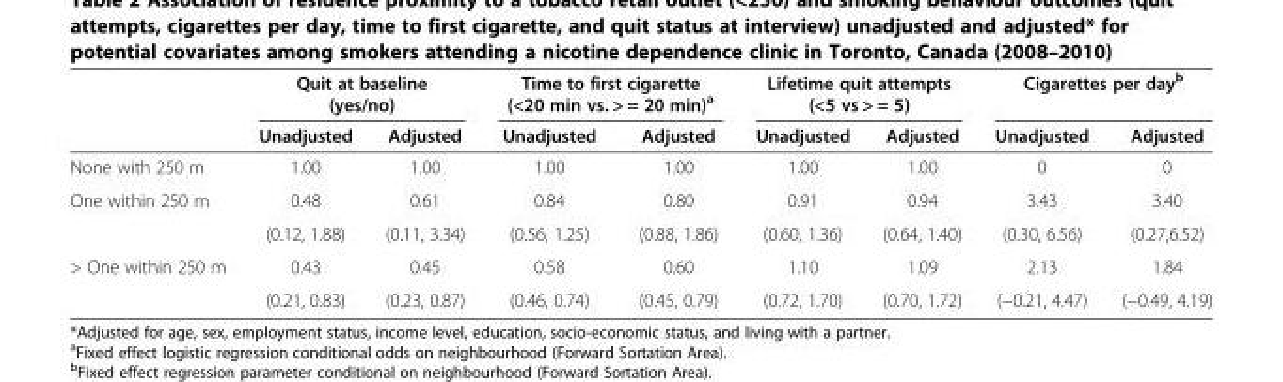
<table><thead><tr><td rowspan="2"></td><td colspan="2">Quit at baseline (yes/no)</td><td colspan="2">Time to first cigarette (&lt;20 min vs. &gt; = 20 min)<sup>a</sup></td><td colspan="2">Lifetime quit attempts (&lt;5 vs &gt; = 5)</td><td colspan="2">Cigarettes per day<sup>b</sup></td></tr><tr><td>Unadjusted</td><td>Adjusted</td><td>Unadjusted</td><td>Adjusted</td><td>Unadjusted</td><td>Adjusted</td><td>Unadjusted</td><td>Adjusted</td></tr></thead><tbody><tr><td>None with 250 m</td><td>1.00</td><td>1.00</td><td>1.00</td><td>1.00</td><td>1.00</td><td>1.00</td><td>0</td><td>0</td></tr><tr><td rowspan="2">One within 250 m</td><td>0.48</td><td>0.61</td><td>0.84</td><td>0.80</td><td>0.91</td><td>0.94</td><td>3.43</td><td>3.40</td></tr><tr><td>(0.12, 1.88)</td><td>(0.11, 3.34)</td><td>(0.56, 1.25)</td><td>(0.88, 1.86)</td><td>(0.60, 1.36)</td><td>(0.64, 1.40)</td><td>(0.30, 6.56)</td><td>(0.27,6.52)</td></tr><tr><td rowspan="2">&gt; One within 250 m</td><td>0.43</td><td>0.45</td><td>0.58</td><td>0.60</td><td>1.10</td><td>1.09</td><td>2.13</td><td>1.84</td></tr><tr><td>(0.21, 0.83)</td><td>(0.23, 0.87)</td><td>(0.46, 0.74)</td><td>(0.45, 0.79)</td><td>(0.72, 1.70)</td><td>(0.70, 1.72)</td><td>(−0.21, 4.47)</td><td>(−0.49, 4.19)</td></tr></tbody></table>